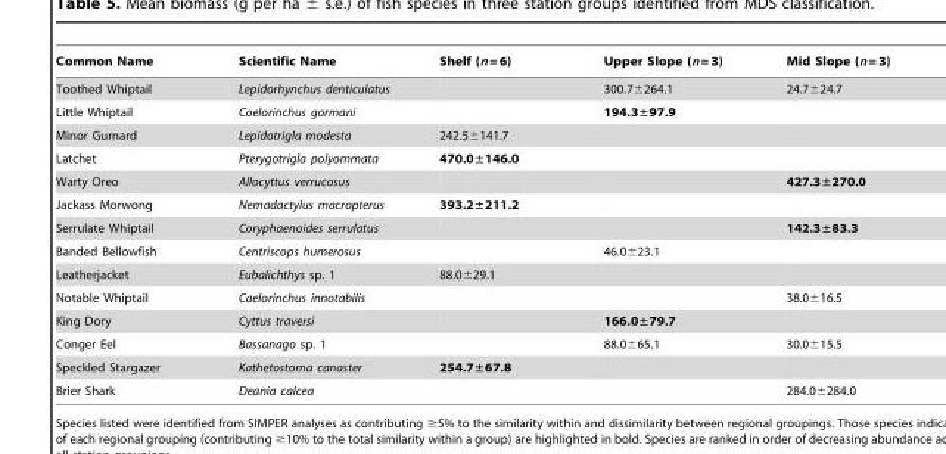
<table><thead><tr><td>Common Name</td><td>Scientific Name</td><td>Shelf (n = 6)</td><td>Upper Slope (n = 3)</td><td>Mid Slope (n = 3)</td></tr></thead><tbody><tr><td>Toothed Whiptail</td><td>Lepidorhynchus denticulatus</td><td></td><td>300.7±264.1</td><td>24.7±24.7</td></tr><tr><td>Little Whiptail</td><td>Coelorinchus gormani</td><td></td><td>194.3±97.9</td><td></td></tr><tr><td>Minor Gurnard</td><td>Lepidotrigla modesta</td><td>242.5±141.7</td><td></td><td></td></tr><tr><td>Latchet</td><td>Pterygotrigla polyommata</td><td>470.0±146.0</td><td></td><td></td></tr><tr><td>Warty Oreo</td><td>Allocyttus verrucosus</td><td></td><td></td><td>427.3±270.0</td></tr><tr><td>Jackass Morwong</td><td>Nemadactylus macropterus</td><td>393.2±211.2</td><td></td><td></td></tr><tr><td>Serrulate Whiptail</td><td>Coryphaenoides serrulatus</td><td></td><td></td><td>142.3±83.3</td></tr><tr><td>Banded Bellowfish</td><td>Centriscops humerosus</td><td></td><td>46.0±23.1</td><td></td></tr><tr><td>Leatherjacket</td><td>Eubalichthys sp. 1</td><td>88.0±29.1</td><td></td><td></td></tr><tr><td>Notable Whiptail</td><td>Caelorinchus innotabilis</td><td></td><td></td><td>38.0±16.5</td></tr><tr><td>King Dory</td><td>Cyttus traversi</td><td></td><td>166.0±79.7</td><td></td></tr><tr><td>Conger Eel</td><td>Bassanago sp. 1</td><td></td><td>88.0±65.1</td><td>30.0±15.5</td></tr><tr><td>Speckled Stargazer</td><td>Kathetostoma canaster</td><td>254.7±67.8</td><td></td><td></td></tr><tr><td>Brier Shark</td><td>Deania calcea</td><td></td><td></td><td>284.0±284.0</td></tr></tbody></table>